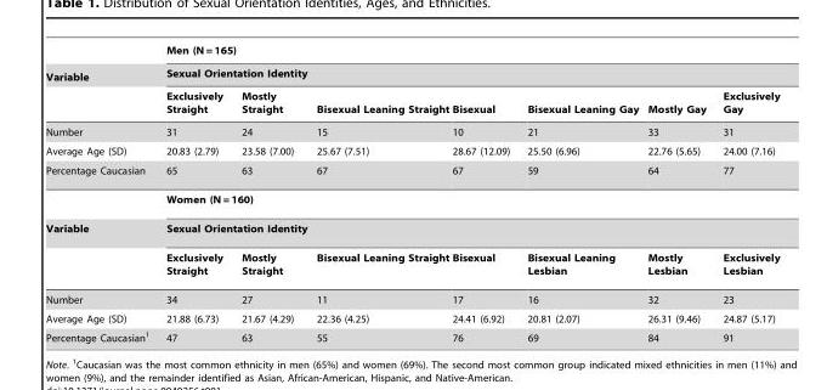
<table><thead><tr><td rowspan="3">Variable</td><td rowspan="2" colspan="7">Men (N = 165) Sexual Orientation Identity</td></tr><tr></tr><tr><td>Exclusively Straight</td><td>Mostly Straight</td><td>Bisexual Leaning Straight</td><td>Bisexual</td><td>Bisexual Leaning Gay</td><td>Mostly Gay</td><td>Exclusively Gay</td></tr></thead><tbody><tr><td>Number</td><td>31</td><td>24</td><td>15</td><td>10</td><td>21</td><td>33</td><td>31</td></tr><tr><td>Average Age (SD)</td><td>20.83 (2.79)</td><td>23.58 (7.00)</td><td>25.67 (7.51)</td><td>28.67 (12.09)</td><td>25.50 (6.96)</td><td>22.76 (5.65)</td><td>24.00 (7.16)</td></tr><tr><td rowspan="2">Percentage Caucasian</td><td>65</td><td>63</td><td>67</td><td>67</td><td>59</td><td>64</td><td>77</td></tr><tr><td colspan="7">Women (N = 160)</td></tr><tr><td rowspan="2">Variable</td><td colspan="7">Sexual Orientation Identity</td></tr><tr><td>Exclusively Straight</td><td>Mostly Straight</td><td>Bisexual Leaning Straight</td><td>Bisexual</td><td>Bisexual Leaning Lesbian</td><td>Mostly Lesbian</td><td>Exclusively Lesbian</td></tr><tr><td>Number</td><td>34</td><td>27</td><td>11</td><td>17</td><td>16</td><td>32</td><td>23</td></tr><tr><td>Average Age (SD)</td><td>21.88 (6.73)</td><td>21.67 (4.29)</td><td>22.36 (4.25)</td><td>24.41 (6.92)</td><td>20.81 (2.07)</td><td>26.31 (9.46)</td><td>24.87 (5.17)</td></tr><tr><td>Percentage Caucasian<sup>1</sup></td><td>47</td><td>63</td><td>55</td><td>76</td><td>69</td><td>84</td><td>91</td></tr></tbody></table>